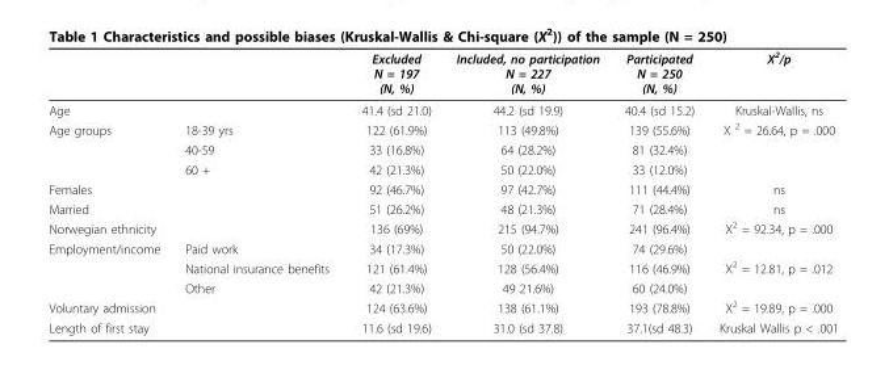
<table><thead><tr><td></td><td></td><td>Excluded N = 197 (N, %)</td><td>Included, no participation N = 227 (N, %)</td><td>Participated N = 250 (N, %)</td><td>X<sup>2</sup>/p</td></tr></thead><tbody><tr><td colspan="2">Age</td><td>41.4 (sd 21.0)</td><td>44.2 (sd 19.9)</td><td>40.4 (sd 15.2)</td><td>Kruskal-Wallis, ns</td></tr><tr><td rowspan="3">Age groups</td><td>18-39 yrs</td><td>122 (61.9%)</td><td>113 (49.8%)</td><td>139 (55.6%)</td><td>X <sup>2</sup> = 26.64, p = .000</td></tr><tr><td>40-59</td><td>33 (16.8%)</td><td>64 (28.2%)</td><td>81 (32.4%)</td><td></td></tr><tr><td>60 +</td><td>42 (21.3%)</td><td>50 (22.0%)</td><td>33 (12.0%)</td><td></td></tr><tr><td>Females</td><td></td><td>92 (46.7%)</td><td>97 (42.7%)</td><td>111 (44.4%)</td><td>ns</td></tr><tr><td>Married</td><td></td><td>51 (26.2%)</td><td>48 (21.3%)</td><td>71 (28.4%)</td><td>ns</td></tr><tr><td>Norwegian ethnicity</td><td></td><td>136 (69%)</td><td>215 (94.7%)</td><td>241 (96.4%)</td><td>X<sup>2</sup> = 92.34, p = .000</td></tr><tr><td rowspan="3">Employment/income</td><td>Paid work</td><td>34 (17.3%)</td><td>50 (22.0%)</td><td>74 (29.6%)</td><td></td></tr><tr><td>National insurance benefits</td><td>121 (61.4%)</td><td>128 (56.4%)</td><td>116 (46.9%)</td><td>X<sup>2</sup> = 12.81, p = .012</td></tr><tr><td>Other</td><td>42 (21.3%)</td><td>49 21.6%)</td><td>60 (24.0%)</td><td></td></tr><tr><td>Voluntary admission</td><td></td><td>124 (63.6%)</td><td>138 (61.1%)</td><td>193 (78.8%)</td><td>X<sup>2</sup> = 19.89, p = .000</td></tr><tr><td>Length of first stay</td><td></td><td>11.6 (sd 19.6)</td><td>31.0 (sd 37.8)</td><td>37.1(sd 48.3)</td><td>Kruskal Wallis p &lt; .001</td></tr></tbody></table>